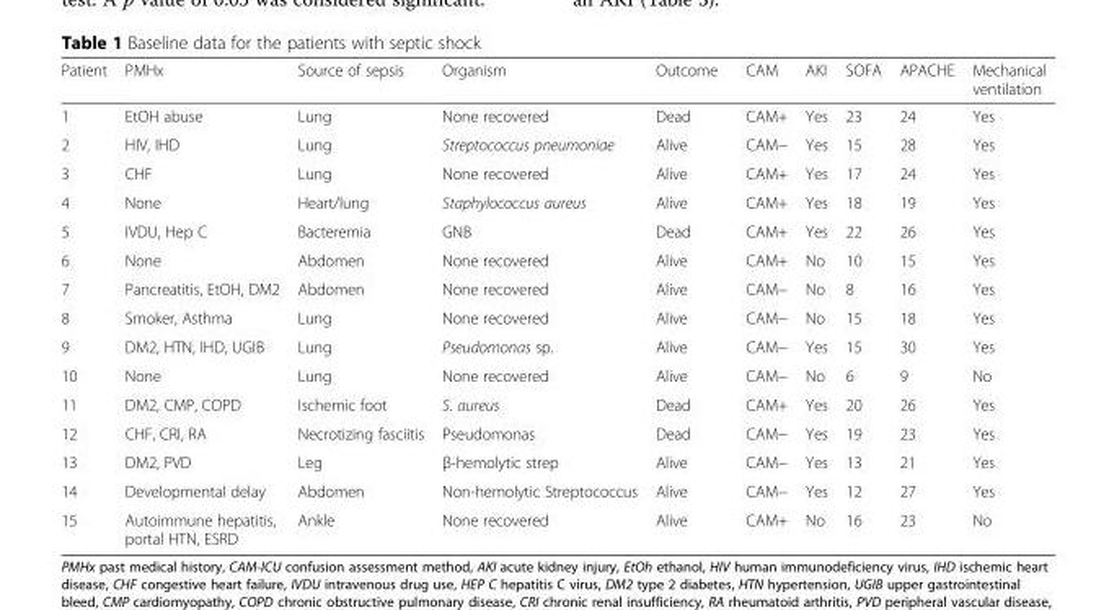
<table><thead><tr><td>Patient</td><td>PMHx</td><td>Source of sepsis</td><td>Organism</td><td>Outcome</td><td>CAM</td><td>AKI</td><td>SOFA</td><td>APACHE</td><td>Mechanical ventilation</td></tr></thead><tbody><tr><td>1</td><td>EtOH abuse</td><td>Lung</td><td>None recovered</td><td>Dead</td><td>CAM+</td><td>Yes</td><td>23</td><td>24</td><td>Yes</td></tr><tr><td>2</td><td>HIV, IHD</td><td>Lung</td><td>Streptococcus pneumoniae</td><td>Alive</td><td>CAM−</td><td>Yes</td><td>15</td><td>28</td><td>Yes</td></tr><tr><td>3</td><td>CHF</td><td>Lung</td><td>None recovered</td><td>Alive</td><td>CAM+</td><td>Yes</td><td>17</td><td>24</td><td>Yes</td></tr><tr><td>4</td><td>None</td><td>Heart/lung</td><td>Staphylococcus aureus</td><td>Alive</td><td>CAM+</td><td>Yes</td><td>18</td><td>19</td><td>Yes</td></tr><tr><td>5</td><td>IVDU, Hep C</td><td>Bacteremia</td><td>GNB</td><td>Dead</td><td>CAM+</td><td>Yes</td><td>22</td><td>26</td><td>Yes</td></tr><tr><td>6</td><td>None</td><td>Abdomen</td><td>None recovered</td><td>Alive</td><td>CAM+</td><td>No</td><td>10</td><td>15</td><td>Yes</td></tr><tr><td>7</td><td>Pancreatitis, EtOH, DM2</td><td>Abdomen</td><td>None recovered</td><td>Alive</td><td>CAM−</td><td>No</td><td>8</td><td>16</td><td>Yes</td></tr><tr><td>8</td><td>Smoker, Asthma</td><td>Lung</td><td>None recovered</td><td>Alive</td><td>CAM−</td><td>No</td><td>15</td><td>18</td><td>Yes</td></tr><tr><td>9</td><td>DM2, HTN, IHD, UGIB</td><td>Lung</td><td>Pseudomonas sp.</td><td>Alive</td><td>CAM−</td><td>Yes</td><td>15</td><td>30</td><td>Yes</td></tr><tr><td>10</td><td>None</td><td>Lung</td><td>None recovered</td><td>Alive</td><td>CAM−</td><td>No</td><td>6</td><td>9</td><td>No</td></tr><tr><td>11</td><td>DM2, CMP, COPD</td><td>Ischemic foot</td><td>S. aureus</td><td>Dead</td><td>CAM+</td><td>Yes</td><td>20</td><td>26</td><td>Yes</td></tr><tr><td>12</td><td>CHF, CRI, RA</td><td>Necrotizing fasciitis</td><td>Pseudomonas</td><td>Dead</td><td>CAM−</td><td>Yes</td><td>19</td><td>23</td><td>Yes</td></tr><tr><td>13</td><td>DM2, PVD</td><td>Leg</td><td>β-hemolytic strep</td><td>Alive</td><td>CAM−</td><td>Yes</td><td>13</td><td>21</td><td>Yes</td></tr><tr><td>14</td><td>Developmental delay</td><td>Abdomen</td><td>Non-hemolytic Streptococcus</td><td>Alive</td><td>CAM−</td><td>Yes</td><td>12</td><td>27</td><td>Yes</td></tr><tr><td>15</td><td>Autoimmune hepatitis, portal HTN, ESRD</td><td>Ankle</td><td>None recovered</td><td>Alive</td><td>CAM+</td><td>No</td><td>16</td><td>23</td><td>No</td></tr></tbody></table>